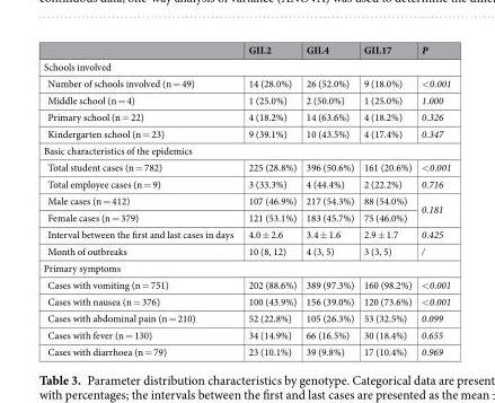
<table><thead><tr><td></td><td>GII.2</td><td>GII.4</td><td>GII.17</td><td>P</td></tr></thead><tbody><tr><td colspan="5">Schools involved</td></tr><tr><td>Number of schools involved (n = 49)</td><td>14 (28.0%)</td><td>26 (52.0%)</td><td>9 (18.0%)</td><td>&lt;0.001</td></tr><tr><td>Middle school (n = 4)</td><td>1 (25.0%)</td><td>2 (50.0%)</td><td>1 (25.0%)</td><td>1.000</td></tr><tr><td>Primary school (n = 22)</td><td>4 (18.2%)</td><td>14 (63.6%)</td><td>4 (18.2%)</td><td>0.326</td></tr><tr><td>Kindergarten school (n = 23)</td><td>9 (39.1%)</td><td>10 (43.5%)</td><td>4 (17.4%)</td><td>0.347</td></tr><tr><td colspan="5">Basic characteristics of the epidemics</td></tr><tr><td>Total student cases (n = 782)</td><td>225 (28.8%)</td><td>396 (50.6%)</td><td>161 (20.6%)</td><td>&lt;0.001</td></tr><tr><td>Total employee cases (n = 9)</td><td>3 (33.3%)</td><td>4 (44.4%)</td><td>2 (22.2%)</td><td>0.716</td></tr><tr><td>Male cases (n = 412)</td><td>107 (46.9%)</td><td>217 (54.3%)</td><td>88 (54.0%)</td><td rowspan="2">0.181</td></tr><tr><td>Female cases (n = 379)</td><td>121 (53.1%)</td><td>183 (45.7%)</td><td>75 (46.0%)</td></tr><tr><td>Interval between the first and last cases in days</td><td>4.0 ± 2.6</td><td>3.4 ± 1.6</td><td>2.9 ± 1.7</td><td>0.425</td></tr><tr><td>Month of outbreaks</td><td>10 (8, 12)</td><td>4 (3, 5)</td><td>3 (3, 5)</td><td>/</td></tr><tr><td colspan="5">Primary symptoms</td></tr><tr><td>Cases with vomiting (n = 751)</td><td>202 (88.6%)</td><td>389 (97.3%)</td><td>160 (98.2%)</td><td>&lt;0.001</td></tr><tr><td>Cases with nausea (n = 376)</td><td>100 (43.9%)</td><td>156 (39.0%)</td><td>120 (73.6%)</td><td>&lt;0.001</td></tr><tr><td>Cases with abdominal pain (n = 210)</td><td>52 (22.8%)</td><td>105 (26.3%)</td><td>53 (32.5%)</td><td>0.099</td></tr><tr><td>Cases with fever (n = 130)</td><td>34 (14.9%)</td><td>66 (16.5%)</td><td>30 (18.4%)</td><td>0.655</td></tr><tr><td>Cases with diarrhoea (n = 79)</td><td>23 (10.1%)</td><td>39 (9.8%)</td><td>17 (10.4%)</td><td>0.969</td></tr></tbody></table>